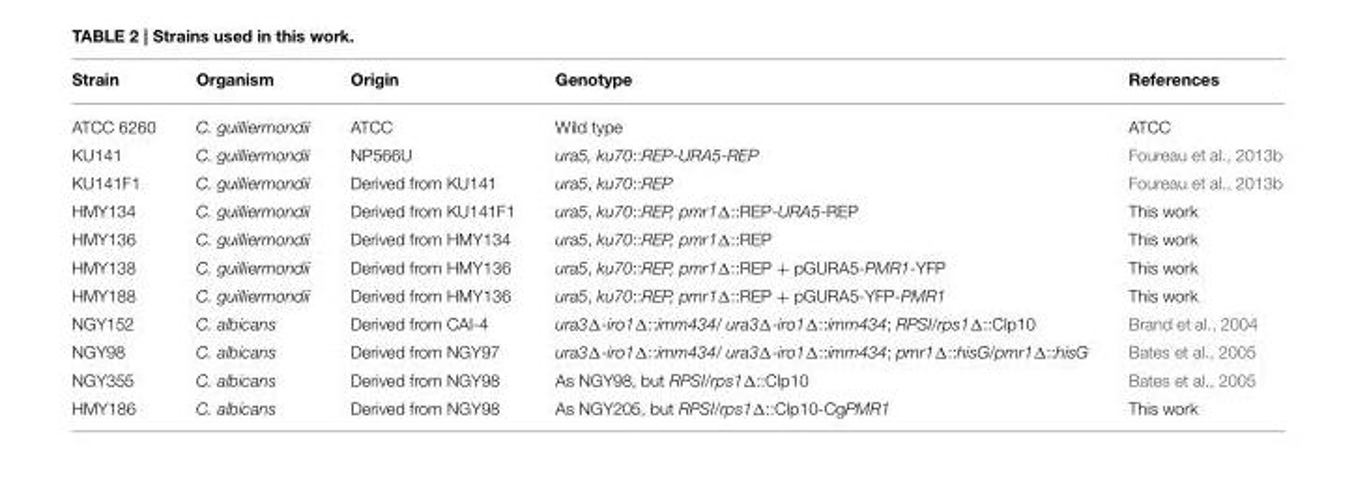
<table><thead><tr><td>Strain</td><td>Organism</td><td>Origin</td><td>Genotype</td><td>References</td></tr></thead><tbody><tr><td>ATCC 6260</td><td>C. guilliermondii</td><td>ATCC</td><td>Wild type</td><td>ATCC</td></tr><tr><td>KU141</td><td>C. guilliermondii</td><td>NP566U</td><td>ura5, ku70::REP-URA5-REP</td><td>Foureau et al., 2013b</td></tr><tr><td>KU141F1</td><td>C. guilliermondii</td><td>Derived from KU141</td><td>ura5, ku70::REP</td><td>Foureau et al., 2013b</td></tr><tr><td>HMY134</td><td>C. guilliermondii</td><td>Derived from KU141F1</td><td>ura5, ku70::REP, pmr1Δ::REP-URA5-REP</td><td>This work</td></tr><tr><td>HMY136</td><td>C. guilliermondii</td><td>Derived from HMY134</td><td>ura5, ku70::REP, pmr1Δ::REP</td><td>This work</td></tr><tr><td>HMY138</td><td>C. guilliermondii</td><td>Derived from HMY136</td><td>ura5, ku70::REP, pmr1Δ::REP + pGURA5-PMR1-YFP</td><td>This work</td></tr><tr><td>HMY188</td><td>C. guilliermondii</td><td>Derived from HMY136</td><td>ura5, ku70::REP, pmr1Δ::REP + pGURA5-YFP-PMR1</td><td>This work</td></tr><tr><td>NGY152</td><td>C. albicans</td><td>Derived from CAI-4</td><td>ura3Δ-iro1Δ::imm434/ ura3Δ-iro1Δ::imm434; RPSI/rps1Δ::Clp10</td><td>Brand et al., 2004</td></tr><tr><td>NGY98</td><td>C. albicans</td><td>Derived from NGY97</td><td>ura3Δ-iro1Δ::imm434/ ura3Δ-iro1Δ::imm434; pmr1Δ::hisG/pmr1Δ::hisG</td><td>Bates et al., 2005</td></tr><tr><td>NGY355</td><td>C. albicans</td><td>Derived from NGY98</td><td>As NGY98, but RPSI/rps1Δ::Clp10</td><td>Bates et al., 2005</td></tr><tr><td>HMY186</td><td>C. albicans</td><td>Derived from NGY98</td><td>As NGY205, but RPSI/rps1Δ::Clp10-CgPMR1</td><td>This work</td></tr></tbody></table>